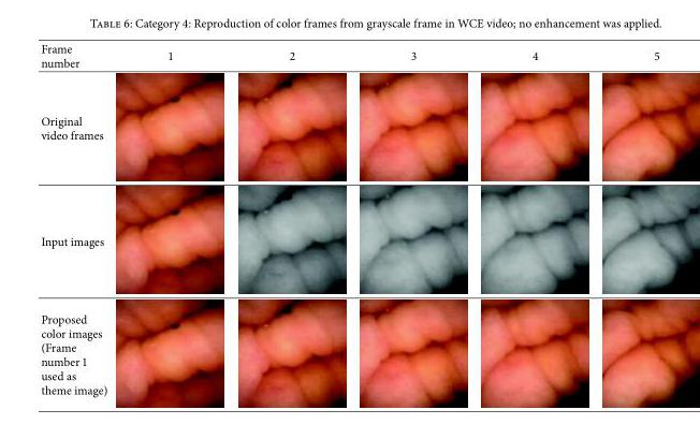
<table><thead><tr><td>Frame number</td><td>1</td><td>2</td><td>3</td><td>4</td><td>5</td></tr></thead><tbody><tr><td colspan="6">Original video frames</td></tr><tr><td colspan="6">Input images</td></tr><tr><td>Proposed color images (Frame number 1 used as theme image)</td><td></td><td></td><td></td><td></td><td></td></tr></tbody></table>